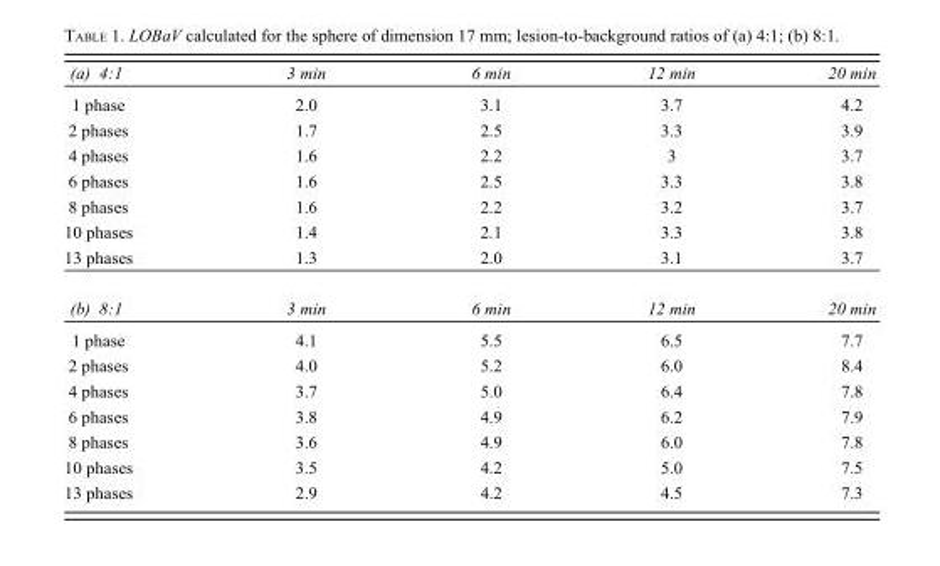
<table><tbody><tr><td>(a) 4:1</td><td>3 min</td><td>6 min</td><td>12 min</td><td>20 min</td></tr><tr><td>1 phase</td><td>2.0</td><td>3.1</td><td>3.7</td><td>4.2</td></tr><tr><td>2 phases</td><td>1.7</td><td>2.5</td><td>3.3</td><td>3.9</td></tr><tr><td>4 phases</td><td>1.6</td><td>2.2</td><td>3</td><td>3.7</td></tr><tr><td>6 phases</td><td>1.6</td><td>2.5</td><td>3.3</td><td>3.8</td></tr><tr><td>8 phases</td><td>1.6</td><td>2.2</td><td>3.2</td><td>3.7</td></tr><tr><td>10 phases</td><td>1.4</td><td>2.1</td><td>3.3</td><td>3.8</td></tr><tr><td>13 phases</td><td>1.3</td><td>2.0</td><td>3.1</td><td>3.7</td></tr><tr><td>(b) 8:1</td><td>3 min</td><td>6 min</td><td>12 min</td><td>20 min</td></tr><tr><td>1 phase</td><td>4.1</td><td>5.5</td><td>6.5</td><td>7.7</td></tr><tr><td>2 phases</td><td>4.0</td><td>5.2</td><td>6.0</td><td>8.4</td></tr><tr><td>4 phases</td><td>3.7</td><td>5.0</td><td>6.4</td><td>7.8</td></tr><tr><td>6 phases</td><td>3.8</td><td>4.9</td><td>6.2</td><td>7.9</td></tr><tr><td>8 phases</td><td>3.6</td><td>4.9</td><td>6.0</td><td>7.8</td></tr><tr><td>10 phases</td><td>3.5</td><td>4.2</td><td>5.0</td><td>7.5</td></tr><tr><td>13 phases</td><td>2.9</td><td>4.2</td><td>4.5</td><td>7.3</td></tr></tbody></table>